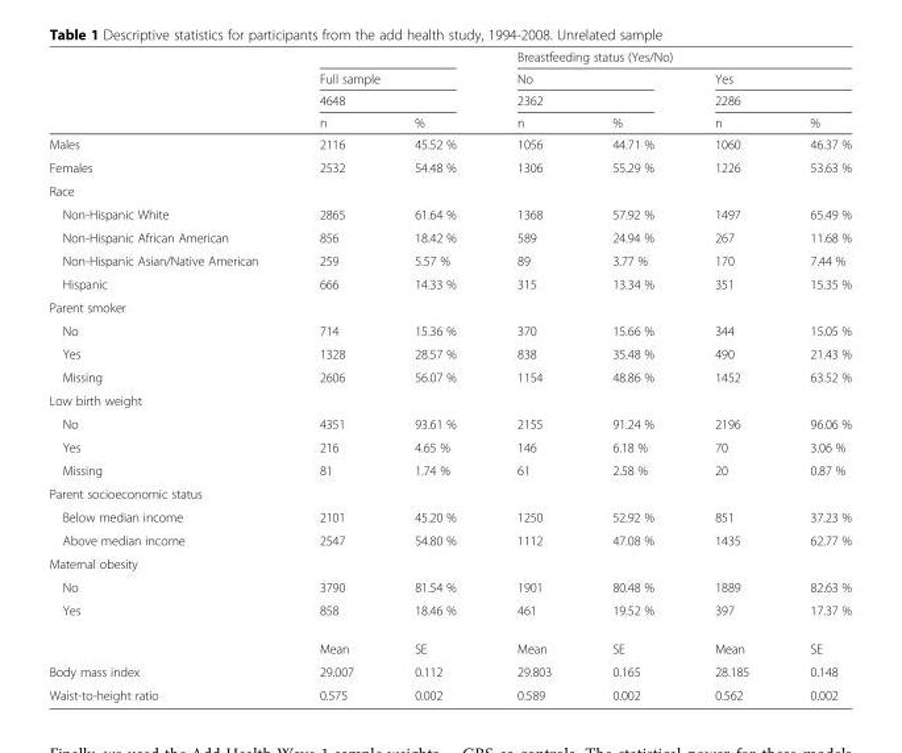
<table><thead><tr><td rowspan="4"></td><td></td><td></td><td colspan="4">Breastfeeding status (Yes/No)</td></tr><tr><td rowspan="2" colspan="2">Full sample 4648</td><td rowspan="2" colspan="2">No 2362</td><td rowspan="2" colspan="2">Yes 2286</td></tr><tr></tr><tr><td>n</td><td>%</td><td>n</td><td>%</td><td>n</td><td>%</td></tr></thead><tbody><tr><td>Males</td><td>2116</td><td>45.52 %</td><td>1056</td><td>44.71 %</td><td>1060</td><td>46.37 %</td></tr><tr><td>Females</td><td>2532</td><td>54.48 %</td><td>1306</td><td>55.29 %</td><td>1226</td><td>53.63 %</td></tr><tr><td colspan="7">Race</td></tr><tr><td>Non-Hispanic White</td><td>2865</td><td>61.64 %</td><td>1368</td><td>57.92 %</td><td>1497</td><td>65.49 %</td></tr><tr><td>Non-Hispanic African American</td><td>856</td><td>18.42 %</td><td>589</td><td>24.94 %</td><td>267</td><td>11.68 %</td></tr><tr><td>Non-Hispanic Asian/Native American</td><td>259</td><td>5.57 %</td><td>89</td><td>3.77 %</td><td>170</td><td>7.44 %</td></tr><tr><td>Hispanic</td><td>666</td><td>14.33 %</td><td>315</td><td>13.34 %</td><td>351</td><td>15.35 %</td></tr><tr><td colspan="7">Parent smoker</td></tr><tr><td>No</td><td>714</td><td>15.36 %</td><td>370</td><td>15.66 %</td><td>344</td><td>15.05 %</td></tr><tr><td>Yes</td><td>1328</td><td>28.57 %</td><td>838</td><td>35.48 %</td><td>490</td><td>21.43 %</td></tr><tr><td>Missing</td><td>2606</td><td>56.07 %</td><td>1154</td><td>48.86 %</td><td>1452</td><td>63.52 %</td></tr><tr><td colspan="7">Low birth weight</td></tr><tr><td>No</td><td>4351</td><td>93.61 %</td><td>2155</td><td>91.24 %</td><td>2196</td><td>96.06 %</td></tr><tr><td>Yes</td><td>216</td><td>4.65 %</td><td>146</td><td>6.18 %</td><td>70</td><td>3.06 %</td></tr><tr><td>Missing</td><td>81</td><td>1.74 %</td><td>61</td><td>2.58 %</td><td>20</td><td>0.87 %</td></tr><tr><td colspan="7">Parent socioeconomic status</td></tr><tr><td>Below median income</td><td>2101</td><td>45.20 %</td><td>1250</td><td>52.92 %</td><td>851</td><td>37.23 %</td></tr><tr><td>Above median income</td><td>2547</td><td>54.80 %</td><td>1112</td><td>47.08 %</td><td>1435</td><td>62.77 %</td></tr><tr><td colspan="7">Maternal obesity</td></tr><tr><td>No</td><td>3790</td><td>81.54 %</td><td>1901</td><td>80.48 %</td><td>1889</td><td>82.63 %</td></tr><tr><td rowspan="2">Yes</td><td>858</td><td>18.46 %</td><td>461</td><td>19.52 %</td><td>397</td><td>17.37 %</td></tr><tr><td>Mean</td><td>SE</td><td>Mean</td><td>SE</td><td>Mean</td><td>SE</td></tr><tr><td>Body mass index</td><td>29.007</td><td>0.112</td><td>29.803</td><td>0.165</td><td>28.185</td><td>0.148</td></tr><tr><td>Waist-to-height ratio</td><td>0.575</td><td>0.002</td><td>0.589</td><td>0.002</td><td>0.562</td><td>0.002</td></tr></tbody></table>